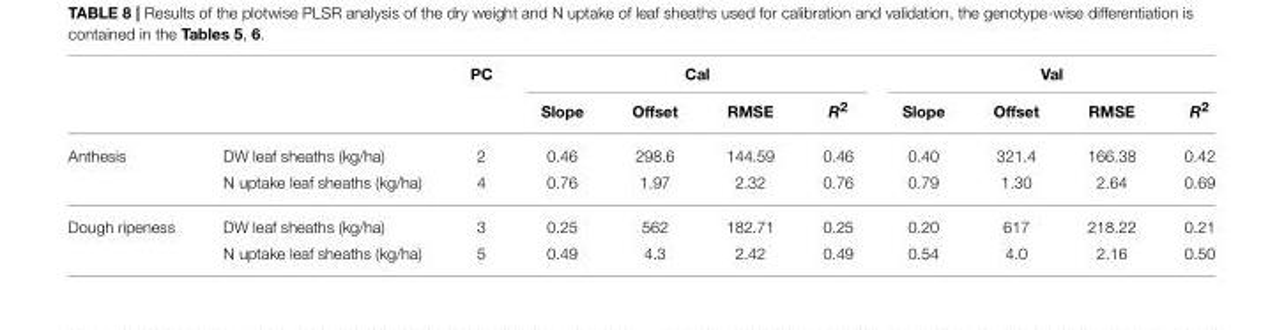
<table><thead><tr><td rowspan="2"></td><td rowspan="2"></td><td rowspan="2">PC</td><td colspan="4">Cal</td><td colspan="4">Val</td></tr><tr><td>Slope</td><td>Offset</td><td>RMSE</td><td>R<sup>2</sup></td><td>Slope</td><td>Offset</td><td>RMSE</td><td>R<sup>2</sup></td></tr></thead><tbody><tr><td rowspan="2">Anthesis</td><td>DW leaf sheaths (kg/ha)</td><td>2</td><td>0.46</td><td>298.6</td><td>144.59</td><td>0.46</td><td>0.40</td><td>321.4</td><td>166.38</td><td>0.42</td></tr><tr><td>N uptake leaf sheaths (kg/ha)</td><td>4</td><td>0.76</td><td>1.97</td><td>2.32</td><td>0.76</td><td>0.79</td><td>1.30</td><td>2.64</td><td>0.69</td></tr><tr><td rowspan="2">Dough ripeness</td><td>DW leaf sheaths (kg/ha)</td><td>3</td><td>0.25</td><td>562</td><td>182.71</td><td>0.25</td><td>0.20</td><td>617</td><td>218.22</td><td>0.21</td></tr><tr><td>N uptake leaf sheaths (kg/ha)</td><td>5</td><td>0.49</td><td>4.3</td><td>2.42</td><td>0.49</td><td>0.54</td><td>4.0</td><td>2.16</td><td>0.50</td></tr></tbody></table>